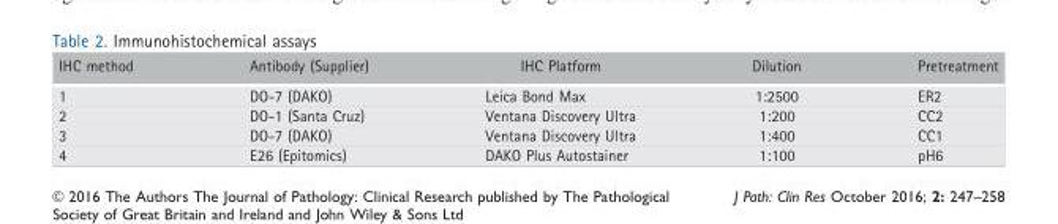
<table><thead><tr><td>IHC method</td><td>Antibody (Supplier)</td><td>IHC Platform</td><td>Dilution</td><td>Pretreatment</td></tr></thead><tbody><tr><td>1</td><td>DO-7 (DAKO)</td><td>Leica Bond Max</td><td>1:2500</td><td>ER2</td></tr><tr><td>2</td><td>DO-1 (Santa Cruz)</td><td>Ventana Discovery Ultra</td><td>1:200</td><td>CC2</td></tr><tr><td>3</td><td>DO-7 (DAKO)</td><td>Ventana Discovery Ultra</td><td>1:400</td><td>CC1</td></tr><tr><td>4</td><td>E26 (Epitomics)</td><td>DAKO Plus Autostainer</td><td>1:100</td><td>pH6</td></tr></tbody></table>